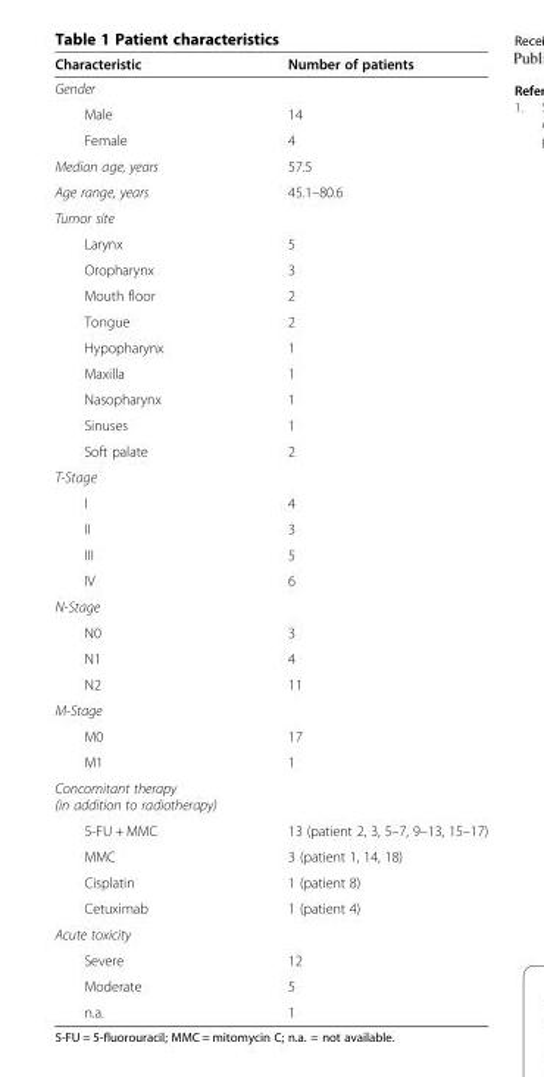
<table><thead><tr><td>Characteristic</td><td>Number of patients</td></tr></thead><tbody><tr><td colspan="2">Gender</td></tr><tr><td>Male</td><td>14</td></tr><tr><td>Female</td><td>4</td></tr><tr><td>Median age, years</td><td>57.5</td></tr><tr><td>Age range, years</td><td>45.1–80.6</td></tr><tr><td colspan="2">Tumor site</td></tr><tr><td>Larynx</td><td>5</td></tr><tr><td>Oropharynx</td><td>3</td></tr><tr><td>Mouth floor</td><td>2</td></tr><tr><td>Tongue</td><td>2</td></tr><tr><td>Hypopharynx</td><td>1</td></tr><tr><td>Maxilla</td><td>1</td></tr><tr><td>Nasopharynx</td><td>1</td></tr><tr><td>Sinuses</td><td>1</td></tr><tr><td>Soft palate</td><td>2</td></tr><tr><td colspan="2">T-Stage</td></tr><tr><td>I</td><td>4</td></tr><tr><td>II</td><td>3</td></tr><tr><td>III</td><td>5</td></tr><tr><td>IV</td><td>6</td></tr><tr><td colspan="2">N-Stage</td></tr><tr><td>N0</td><td>3</td></tr><tr><td>N1</td><td>4</td></tr><tr><td>N2</td><td>11</td></tr><tr><td colspan="2">M-Stage</td></tr><tr><td>M0</td><td>17</td></tr><tr><td>M1</td><td>1</td></tr><tr><td colspan="2">Concomitant therapy (in addition to radiotherapy)</td></tr><tr><td>5-FU + MMC</td><td>13 (patient 2, 3, 5–7, 9–13, 15–17)</td></tr><tr><td>MMC</td><td>3 (patient 1, 14, 18)</td></tr><tr><td>Cisplatin</td><td>1 (patient 8)</td></tr><tr><td>Cetuximab</td><td>1 (patient 4)</td></tr><tr><td colspan="2">Acute toxicity</td></tr><tr><td>Severe</td><td>12</td></tr><tr><td>Moderate</td><td>5</td></tr><tr><td>n.a.</td><td>1</td></tr></tbody></table>